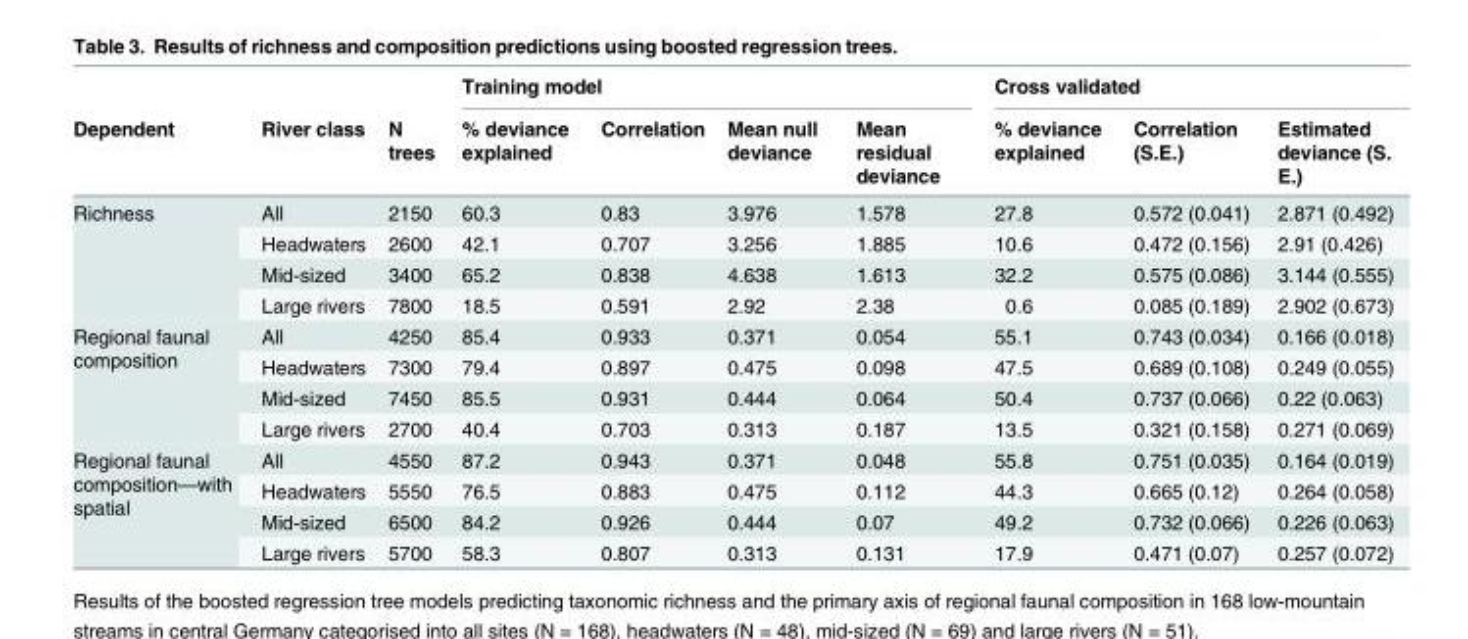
<table><thead><tr><td rowspan="2">Dependent</td><td rowspan="2">River class</td><td rowspan="2">N trees</td><td colspan="4">Training model</td><td colspan="3">Cross validated</td></tr><tr><td>% deviance explained</td><td>Correlation</td><td>Mean null deviance</td><td>Mean residual deviance</td><td>% deviance explained</td><td>Correlation (S.E.)</td><td>Estimated deviance (S. E.)</td></tr></thead><tbody><tr><td rowspan="4">Richness</td><td>All</td><td>2150</td><td>60.3</td><td>0.83</td><td>3.976</td><td>1.578</td><td>27.8</td><td>0.572 (0.041)</td><td>2.871 (0.492)</td></tr><tr><td>Headwaters</td><td>2600</td><td>42.1</td><td>0.707</td><td>3.256</td><td>1.885</td><td>10.6</td><td>0.472 (0.156)</td><td>2.91 (0.426)</td></tr><tr><td>Mid-sized</td><td>3400</td><td>65.2</td><td>0.838</td><td>4.638</td><td>1.613</td><td>32.2</td><td>0.575 (0.086)</td><td>3.144 (0.555)</td></tr><tr><td>Large rivers</td><td>7800</td><td>18.5</td><td>0.591</td><td>2.92</td><td>2.38</td><td>0.6</td><td>0.085 (0.189)</td><td>2.902 (0.673)</td></tr><tr><td rowspan="4">Regional faunal composition</td><td>All</td><td>4250</td><td>85.4</td><td>0.933</td><td>0.371</td><td>0.054</td><td>55.1</td><td>0.743 (0.034)</td><td>0.166 (0.018)</td></tr><tr><td>Headwaters</td><td>7300</td><td>79.4</td><td>0.897</td><td>0.475</td><td>0.098</td><td>47.5</td><td>0.689 (0.108)</td><td>0.249 (0.055)</td></tr><tr><td>Mid-sized</td><td>7450</td><td>85.5</td><td>0.931</td><td>0.444</td><td>0.064</td><td>50.4</td><td>0.737 (0.066)</td><td>0.22 (0.063)</td></tr><tr><td>Large rivers</td><td>2700</td><td>40.4</td><td>0.703</td><td>0.313</td><td>0.187</td><td>13.5</td><td>0.321 (0.158)</td><td>0.271 (0.069)</td></tr><tr><td rowspan="4">Regional faunal composition—with spatial</td><td>All</td><td>4550</td><td>87.2</td><td>0.943</td><td>0.371</td><td>0.048</td><td>55.8</td><td>0.751 (0.035)</td><td>0.164 (0.019)</td></tr><tr><td>Headwaters</td><td>5550</td><td>76.5</td><td>0.883</td><td>0.475</td><td>0.112</td><td>44.3</td><td>0.665 (0.12)</td><td>0.264 (0.058)</td></tr><tr><td>Mid-sized</td><td>6500</td><td>84.2</td><td>0.926</td><td>0.444</td><td>0.07</td><td>49.2</td><td>0.732 (0.066)</td><td>0.226 (0.063)</td></tr><tr><td>Large rivers</td><td>5700</td><td>58.3</td><td>0.807</td><td>0.313</td><td>0.131</td><td>17.9</td><td>0.471 (0.07)</td><td>0.257 (0.072)</td></tr></tbody></table>